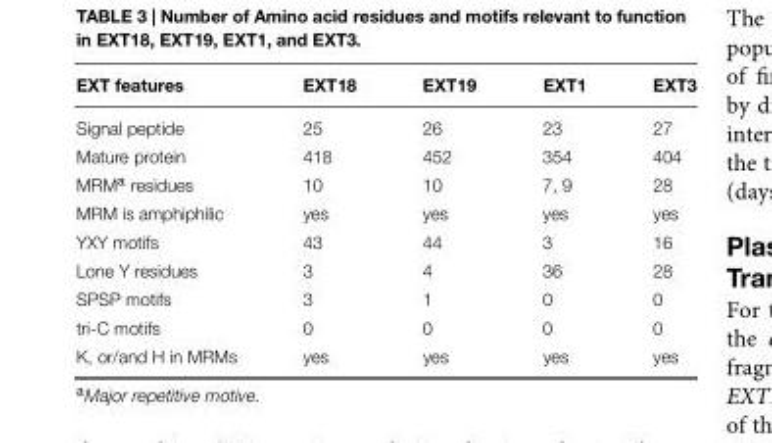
<table><thead><tr><td>EXT features</td><td>EXT18</td><td>EXT19</td><td>EXT1</td><td>EXT3</td></tr></thead><tbody><tr><td>Signal peptide</td><td>25</td><td>26</td><td>23</td><td>27</td></tr><tr><td>Mature protein</td><td>418</td><td>452</td><td>354</td><td>404</td></tr><tr><td>MRM<sup>a</sup> residues</td><td>10</td><td>10</td><td>7, 9</td><td>28</td></tr><tr><td>MRM is amphiphilic</td><td>yes</td><td>yes</td><td>yes</td><td>yes</td></tr><tr><td>YXY motifs</td><td>43</td><td>44</td><td>3</td><td>16</td></tr><tr><td>Lone Y residues</td><td>3</td><td>4</td><td>36</td><td>28</td></tr><tr><td>SPSP motifs</td><td>3</td><td>1</td><td>0</td><td>0</td></tr><tr><td>tri-C motifs</td><td>0</td><td>0</td><td>0</td><td>0</td></tr><tr><td>K, or/and H in MRMs</td><td>yes</td><td>yes</td><td>yes</td><td>yes</td></tr></tbody></table>